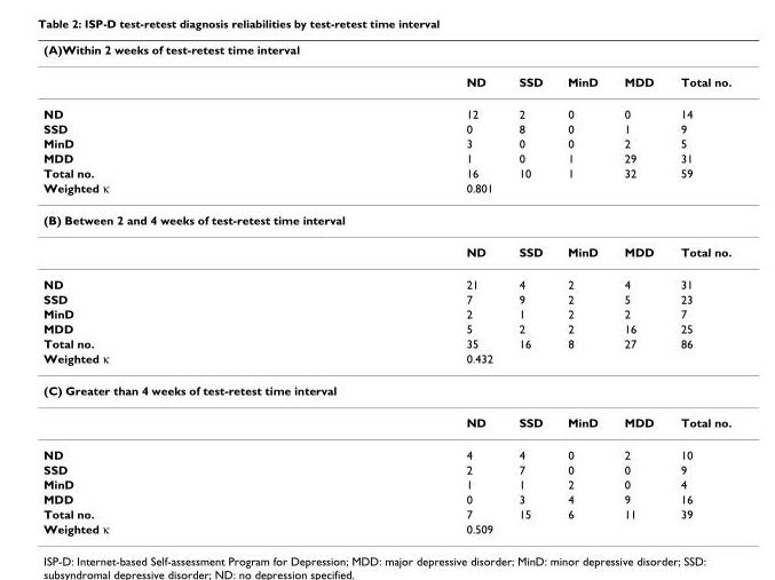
<table><thead><tr><td>(A)Within 2 weeks of test-retest time interval</td><td></td><td></td><td></td><td></td><td></td></tr></thead><tbody><tr><td></td><td>ND</td><td>SSD</td><td>MinD</td><td>MDD</td><td>Total no.</td></tr><tr><td>ND</td><td>12</td><td>2</td><td>0</td><td>0</td><td>14</td></tr><tr><td>SSD</td><td>0</td><td>8</td><td>0</td><td>1</td><td>9</td></tr><tr><td>MinD</td><td>3</td><td>0</td><td>0</td><td>2</td><td>5</td></tr><tr><td>MDD</td><td>1</td><td>0</td><td>1</td><td>29</td><td>31</td></tr><tr><td>Total no.</td><td>16</td><td>10</td><td>1</td><td>32</td><td>59</td></tr><tr><td>Weighted κ</td><td>0.801</td><td></td><td></td><td></td><td></td></tr><tr><td colspan="6">(B) Between 2 and 4 weeks of test-retest time interval</td></tr><tr><td></td><td>ND</td><td>SSD</td><td>MinD</td><td>MDD</td><td>Total no.</td></tr><tr><td>ND</td><td>21</td><td>4</td><td>2</td><td>4</td><td>31</td></tr><tr><td>SSD</td><td>7</td><td>9</td><td>2</td><td>5</td><td>23</td></tr><tr><td>MinD</td><td>2</td><td>1</td><td>2</td><td>2</td><td>7</td></tr><tr><td>MDD</td><td>5</td><td>2</td><td>2</td><td>16</td><td>25</td></tr><tr><td>Total no.</td><td>35</td><td>16</td><td>8</td><td>27</td><td>86</td></tr><tr><td>Weighted κ</td><td>0.432</td><td></td><td></td><td></td><td></td></tr><tr><td colspan="6">(C) Greater than 4 weeks of test-retest time interval</td></tr><tr><td></td><td>ND</td><td>SSD</td><td>MinD</td><td>MDD</td><td>Total no.</td></tr><tr><td>ND</td><td>4</td><td>4</td><td>0</td><td>2</td><td>10</td></tr><tr><td>SSD</td><td>2</td><td>7</td><td>0</td><td>0</td><td>9</td></tr><tr><td>MinD</td><td>1</td><td>1</td><td>2</td><td>0</td><td>4</td></tr><tr><td>MDD</td><td>0</td><td>3</td><td>4</td><td>9</td><td>16</td></tr><tr><td>Total no.</td><td>7</td><td>15</td><td>6</td><td>11</td><td>39</td></tr><tr><td>Weighted κ</td><td>0.509</td><td></td><td></td><td></td><td></td></tr></tbody></table>